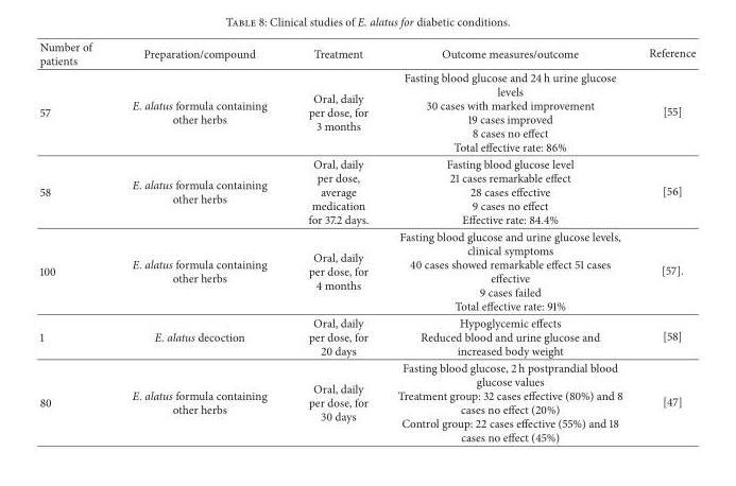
<table><thead><tr><td>Number of patients</td><td>Preparation/compound</td><td>Treatment</td><td>Outcome measures/outcome</td><td>Reference</td></tr></thead><tbody><tr><td>57</td><td>E. alatus formula containing other herbs</td><td>Oral, daily per dose, for 3 months</td><td>Fasting blood glucose and 24 h urine glucose levels 30 cases with marked improvement 19 cases improved 8 cases no effect Total effective rate: 86%</td><td>[55]</td></tr><tr><td>58</td><td>E. alatus formula containing other herbs</td><td>Oral, daily per dose, average medication for 37.2 days.</td><td>Fasting blood glucose level 21 cases remarkable effect 28 cases effective 9 cases no effect Effective rate: 84.4%</td><td>[56]</td></tr><tr><td>100</td><td>E. alatus formula containing other herbs</td><td>Oral, daily per dose, for 4 months</td><td>Fasting blood glucose and urine glucose levels, clinical symptoms 40 cases showed remarkable effect 51 cases effective 9 cases failed Total effective rate: 91%</td><td>[57].</td></tr><tr><td>1</td><td>E. alatus decoction</td><td>Oral, daily per dose, for 20 days</td><td>Hypoglycemic effects Reduced blood and urine glucose and increased body weight</td><td>[58]</td></tr><tr><td>80</td><td>E. alatus formula containing other herbs</td><td>Oral, daily per dose, for 30 days</td><td>Fasting blood glucose, 2 h postprandial blood glucose values Treatment group: 32 cases effective (80%) and 8 cases no effect (20%) Control group: 22 cases effective (55%) and 18 cases no effect (45%)</td><td>[47]</td></tr></tbody></table>